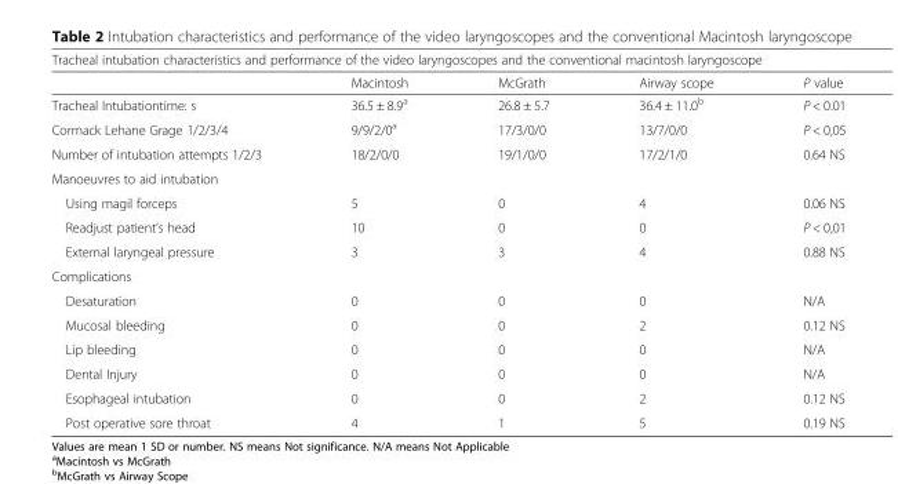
<table><thead><tr><td colspan="5">Tracheal intubation characteristics and performance of the video laryngoscopes and the conventional macintosh laryngoscope</td></tr><tr><td></td><td>Macintosh</td><td>McGrath</td><td>Airway scope</td><td>P value</td></tr></thead><tbody><tr><td>Tracheal Intubationtime: s</td><td>36.5 ± 8.9<sup>a</sup></td><td>26.8 ± 5.7</td><td>36.4 ± 11.0<sup>b</sup></td><td>P &lt; 0.01</td></tr><tr><td>Cormack Lehane Grage 1/2/3/4</td><td>9/9/2/0<sup>a</sup></td><td>17/3/0/0</td><td>13/7/0/0</td><td>P &lt; 0,05</td></tr><tr><td>Number of intubation attempts 1/2/3</td><td>18/2/0/0</td><td>19/1/0/0</td><td>17/2/1/0</td><td>0.64 NS</td></tr><tr><td colspan="5">Manoeuvres to aid intubation</td></tr><tr><td>Using magil forceps</td><td>5</td><td>0</td><td>4</td><td>0.06 NS</td></tr><tr><td>Readjust patient’s head</td><td>10</td><td>0</td><td>0</td><td>P &lt; 0,01</td></tr><tr><td>External laryngeal pressure</td><td>3</td><td>3</td><td>4</td><td>0.88 NS</td></tr><tr><td colspan="5">Complications</td></tr><tr><td>Desaturation</td><td>0</td><td>0</td><td>0</td><td>N/A</td></tr><tr><td>Mucosal bleeding</td><td>0</td><td>0</td><td>2</td><td>0.12 NS</td></tr><tr><td>Lip bleeding</td><td>0</td><td>0</td><td>0</td><td>N/A</td></tr><tr><td>Dental Injury</td><td>0</td><td>0</td><td>0</td><td>N/A</td></tr><tr><td>Esophageal intubation</td><td>0</td><td>0</td><td>2</td><td>0.12 NS</td></tr><tr><td>Post operative sore throat</td><td>4</td><td>1</td><td>5</td><td>0.19 NS</td></tr></tbody></table>